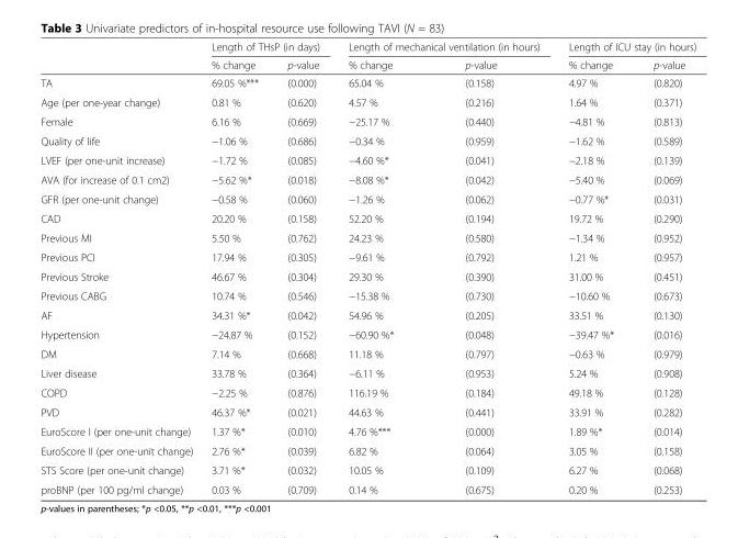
<table><thead><tr><td rowspan="2"></td><td colspan="2">Length of THsP (in days)</td><td colspan="2">Length of mechanical ventilation (in hours)</td><td colspan="2">Length of ICU stay (in hours)</td></tr><tr><td>% change</td><td>p-value</td><td>% change</td><td>p-value</td><td>% change</td><td>p-value</td></tr></thead><tbody><tr><td>TA</td><td>69.05 %***</td><td>(0.000)</td><td>65.04 %</td><td>(0.158)</td><td>4.97 %</td><td>(0.820)</td></tr><tr><td>Age (per one-year change)</td><td>0.81 %</td><td>(0.620)</td><td>4.57 %</td><td>(0.216)</td><td>1.64 %</td><td>(0.371)</td></tr><tr><td>Female</td><td>6.16 %</td><td>(0.669)</td><td>−25.17 %</td><td>(0.440)</td><td>−4.81 %</td><td>(0.813)</td></tr><tr><td>Quality of life</td><td>−1.06 %</td><td>(0.686)</td><td>−0.34 %</td><td>(0.959)</td><td>−1.62 %</td><td>(0.589)</td></tr><tr><td>LVEF (per one-unit increase)</td><td>−1.72 %</td><td>(0.085)</td><td>−4.60 %*</td><td>(0.041)</td><td>−2.18 %</td><td>(0.139)</td></tr><tr><td>AVA (for increase of 0.1 cm2)</td><td>−5.62 %*</td><td>(0.018)</td><td>−8.08 %*</td><td>(0.042)</td><td>−5.40 %</td><td>(0.069)</td></tr><tr><td>GFR (per one-unit change)</td><td>−0.58 %</td><td>(0.060)</td><td>−1.26 %</td><td>(0.062)</td><td>−0.77 %*</td><td>(0.031)</td></tr><tr><td>CAD</td><td>20.20 %</td><td>(0.158)</td><td>52.20 %</td><td>(0.194)</td><td>19.72 %</td><td>(0.290)</td></tr><tr><td>Previous MI</td><td>5.50 %</td><td>(0.762)</td><td>24.23 %</td><td>(0.580)</td><td>−1.34 %</td><td>(0.952)</td></tr><tr><td>Previous PCI</td><td>17.94 %</td><td>(0.305)</td><td>−9.61 %</td><td>(0.792)</td><td>1.21 %</td><td>(0.957)</td></tr><tr><td>Previous Stroke</td><td>46.67 %</td><td>(0.304)</td><td>29.30 %</td><td>(0.390)</td><td>31.00 %</td><td>(0.451)</td></tr><tr><td>Previous CABG</td><td>10.74 %</td><td>(0.546)</td><td>−15.38 %</td><td>(0.730)</td><td>−10.60 %</td><td>(0.673)</td></tr><tr><td>AF</td><td>34.31 %*</td><td>(0.042)</td><td>54.96 %</td><td>(0.205)</td><td>33.51 %</td><td>(0.130)</td></tr><tr><td>Hypertension</td><td>−24.87 %</td><td>(0.152)</td><td>−60.90 %*</td><td>(0.048)</td><td>−39.47 %*</td><td>(0.016)</td></tr><tr><td>DM</td><td>7.14 %</td><td>(0.668)</td><td>11.18 %</td><td>(0.797)</td><td>−0.63 %</td><td>(0.979)</td></tr><tr><td>Liver disease</td><td>33.78 %</td><td>(0.364)</td><td>−6.11 %</td><td>(0.953)</td><td>5.24 %</td><td>(0.908)</td></tr><tr><td>COPD</td><td>−2.25 %</td><td>(0.876)</td><td>116.19 %</td><td>(0.184)</td><td>49.18 %</td><td>(0.128)</td></tr><tr><td>PVD</td><td>46.37 %*</td><td>(0.021)</td><td>44.63 %</td><td>(0.441)</td><td>33.91 %</td><td>(0.282)</td></tr><tr><td>EuroScore I (per one-unit change)</td><td>1.37 %*</td><td>(0.010)</td><td>4.76 %***</td><td>(0.000)</td><td>1.89 %*</td><td>(0.014)</td></tr><tr><td>EuroScore II (per one-unit change)</td><td>2.76 %*</td><td>(0.039)</td><td>6.82 %</td><td>(0.064)</td><td>3.05 %</td><td>(0.158)</td></tr><tr><td>STS Score (per one-unit change)</td><td>3.71 %*</td><td>(0.032)</td><td>10.05 %</td><td>(0.109)</td><td>6.27 %</td><td>(0.068)</td></tr><tr><td>proBNP (per 100 pg/ml change)</td><td>0.03 %</td><td>(0.709)</td><td>0.14 %</td><td>(0.675)</td><td>0.20 %</td><td>(0.253)</td></tr></tbody></table>